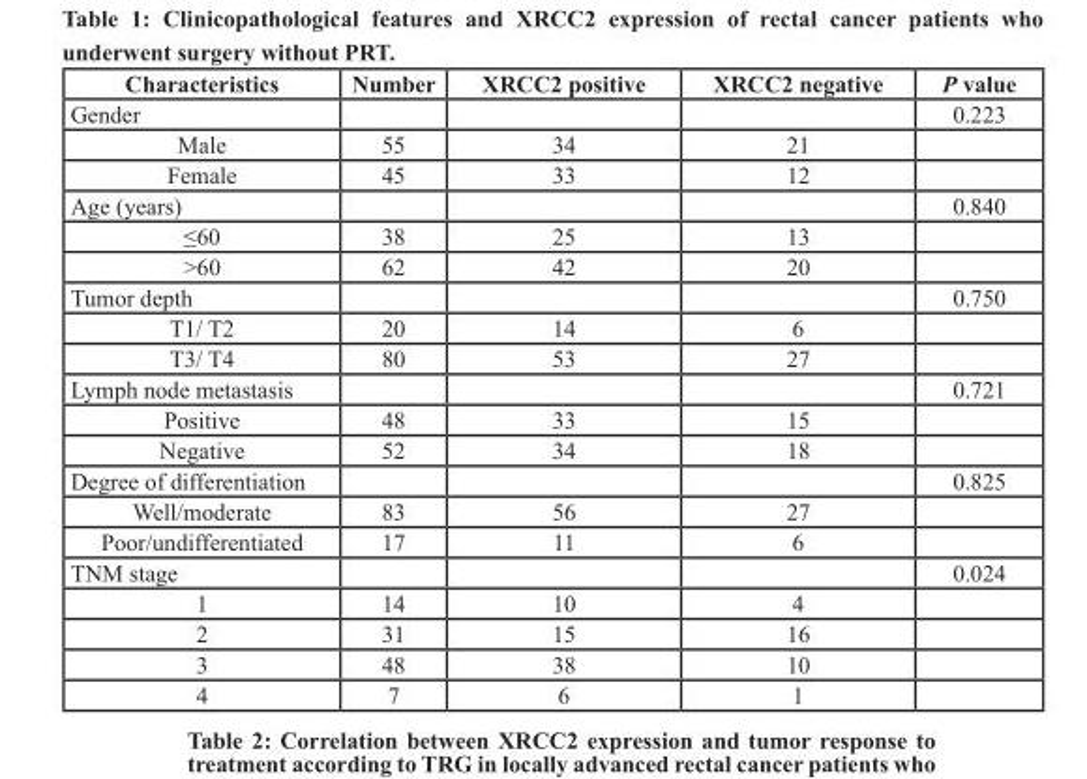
<table><thead><tr><td>Characteristics</td><td>Number</td><td>XRCC2 positive</td><td>XRCC2 negative</td><td>P value</td></tr></thead><tbody><tr><td>Gender</td><td></td><td></td><td></td><td>0.223</td></tr><tr><td>Male</td><td>55</td><td>34</td><td>21</td><td></td></tr><tr><td>Female</td><td>45</td><td>33</td><td>12</td><td></td></tr><tr><td>Age (years)</td><td></td><td></td><td></td><td>0.840</td></tr><tr><td>≤60</td><td>38</td><td>25</td><td>13</td><td></td></tr><tr><td>&gt;60</td><td>62</td><td>42</td><td>20</td><td></td></tr><tr><td>Tumor depth</td><td></td><td></td><td></td><td>0.750</td></tr><tr><td>T1/ T2</td><td>20</td><td>14</td><td>6</td><td></td></tr><tr><td>T3/ T4</td><td>80</td><td>53</td><td>27</td><td></td></tr><tr><td>Lymph node metastasis</td><td></td><td></td><td></td><td>0.721</td></tr><tr><td>Positive</td><td>48</td><td>33</td><td>15</td><td></td></tr><tr><td>Negative</td><td>52</td><td>34</td><td>18</td><td></td></tr><tr><td>Degree of differentiation</td><td></td><td></td><td></td><td>0.825</td></tr><tr><td>Well/moderate</td><td>83</td><td>56</td><td>27</td><td></td></tr><tr><td>Poor/undifferentiated</td><td>17</td><td>11</td><td>6</td><td></td></tr><tr><td>TNM stage</td><td></td><td></td><td></td><td>0.024</td></tr><tr><td>1</td><td>14</td><td>10</td><td>4</td><td></td></tr><tr><td>2</td><td>31</td><td>15</td><td>16</td><td></td></tr><tr><td>3</td><td>48</td><td>38</td><td>10</td><td></td></tr><tr><td>4</td><td>7</td><td>6</td><td>1</td><td></td></tr></tbody></table>